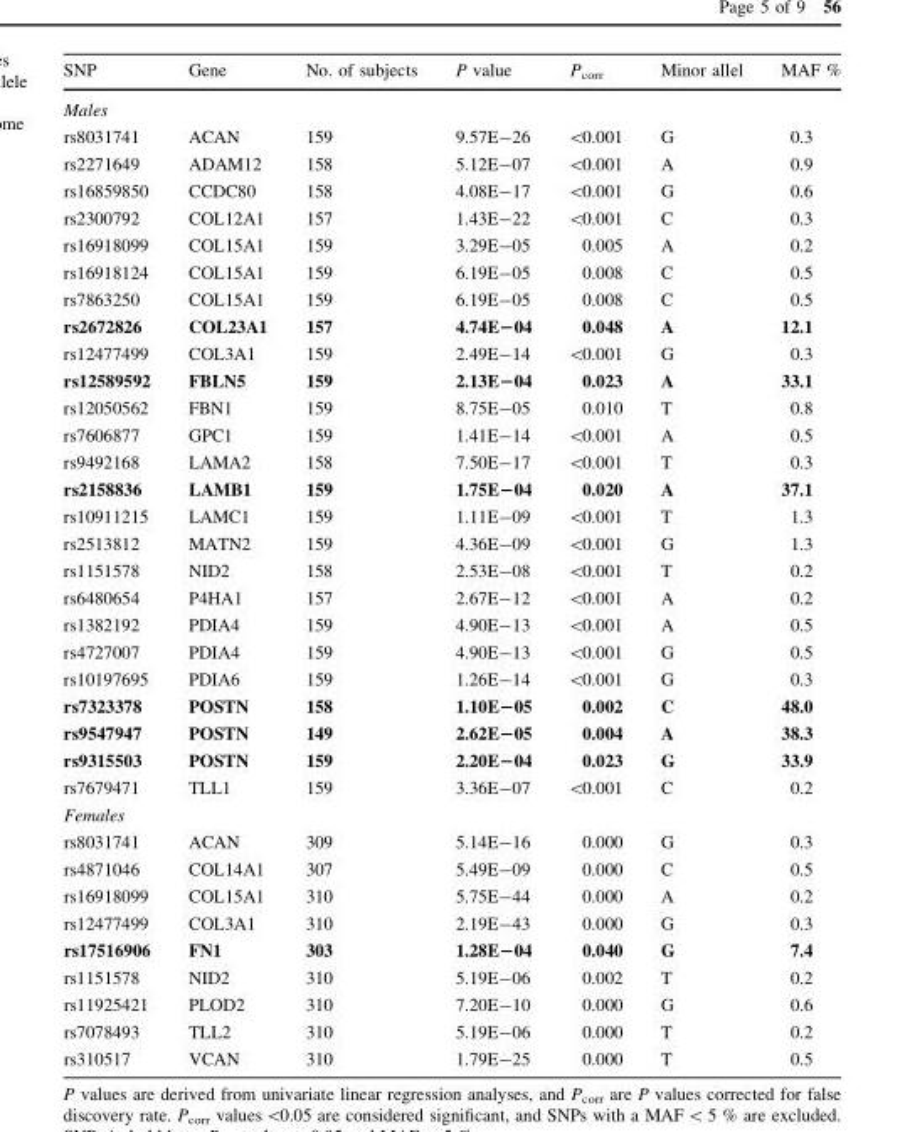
<table><thead><tr><td>SNP</td><td>Gene</td><td>No. of subjects</td><td>P value</td><td>P<sub>corr</sub></td><td>Minor allel</td><td>MAF %</td></tr></thead><tbody><tr><td colspan="7">Males</td></tr><tr><td>rs8031741</td><td>ACAN</td><td>159</td><td>9.57E-26</td><td>&lt;0.001</td><td>G</td><td>0.3</td></tr><tr><td>rs2271649</td><td>ADAM12</td><td>158</td><td>5.12E-07</td><td>&lt;0.001</td><td>A</td><td>0.9</td></tr><tr><td>rs16859850</td><td>CCDC80</td><td>158</td><td>4.08E-17</td><td>&lt;0.001</td><td>G</td><td>0.6</td></tr><tr><td>rs2300792</td><td>COL12A1</td><td>157</td><td>1.43E-22</td><td>&lt;0.001</td><td>C</td><td>0.3</td></tr><tr><td>rs16918099</td><td>COL15A1</td><td>159</td><td>3.29E-05</td><td>0.005</td><td>A</td><td>0.2</td></tr><tr><td>rs16918124</td><td>COL15A1</td><td>159</td><td>6.19E-05</td><td>0.008</td><td>C</td><td>0.5</td></tr><tr><td>rs7863250</td><td>COL15A1</td><td>159</td><td>6.19E-05</td><td>0.008</td><td>C</td><td>0.5</td></tr><tr><td>rs2672826</td><td>COL23A1</td><td>157</td><td>4.74E−04</td><td>0.048</td><td>A</td><td>12.1</td></tr><tr><td>rs12477499</td><td>COL3A1</td><td>159</td><td>2.49E-14</td><td>&lt;0.001</td><td>G</td><td>0.3</td></tr><tr><td>rs12589592</td><td>FBLN5</td><td>159</td><td>2.13E−04</td><td>0.023</td><td>A</td><td>33.1</td></tr><tr><td>rs12050562</td><td>FBN1</td><td>159</td><td>8.75E-05</td><td>0.010</td><td>T</td><td>0.8</td></tr><tr><td>rs7606877</td><td>GPC1</td><td>159</td><td>1.41E-14</td><td>&lt;0.001</td><td>A</td><td>0.5</td></tr><tr><td>rs9492168</td><td>LAMA2</td><td>158</td><td>7.50E-17</td><td>&lt;0.001</td><td>T</td><td>0.3</td></tr><tr><td>rs2158836</td><td>LAMB1</td><td>159</td><td>1.75E−04</td><td>0.020</td><td>A</td><td>37.1</td></tr><tr><td>rs10911215</td><td>LAMC1</td><td>159</td><td>1.11E-09</td><td>&lt;0.001</td><td>T</td><td>1.3</td></tr><tr><td>rs2513812</td><td>MATN2</td><td>159</td><td>4.36E-09</td><td>&lt;0.001</td><td>G</td><td>1.3</td></tr><tr><td>rs1151578</td><td>NID2</td><td>158</td><td>2.53E-08</td><td>&lt;0.001</td><td>T</td><td>0.2</td></tr><tr><td>rs6480654</td><td>P4HA1</td><td>157</td><td>2.67E-12</td><td>&lt;0.001</td><td>A</td><td>0.2</td></tr><tr><td>rs1382192</td><td>PDIA4</td><td>159</td><td>4.90E-13</td><td>&lt;0.001</td><td>A</td><td>0.5</td></tr><tr><td>rs4727007</td><td>PDIA4</td><td>159</td><td>4.90E-13</td><td>&lt;0.001</td><td>G</td><td>0.5</td></tr><tr><td>rs10197695</td><td>PDIA6</td><td>159</td><td>1.26E-14</td><td>&lt;0.001</td><td>G</td><td>0.3</td></tr><tr><td>rs7323378</td><td>POSTN</td><td>158</td><td>1.10E−05</td><td>0.002</td><td>C</td><td>48.0</td></tr><tr><td>rs9547947</td><td>POSTN</td><td>149</td><td>2.62E−05</td><td>0.004</td><td>A</td><td>38.3</td></tr><tr><td>rs9315503</td><td>POSTN</td><td>159</td><td>2.20E−04</td><td>0.023</td><td>G</td><td>33.9</td></tr><tr><td>rs7679471</td><td>TLL1</td><td>159</td><td>3.36E-07</td><td>&lt;0.001</td><td>C</td><td>0.2</td></tr><tr><td colspan="7">Females</td></tr><tr><td>rs8031741</td><td>ACAN</td><td>309</td><td>5.14E-16</td><td>0.000</td><td>G</td><td>0.3</td></tr><tr><td>rs4871046</td><td>COL14A1</td><td>307</td><td>5.49E-09</td><td>0.000</td><td>C</td><td>0.5</td></tr><tr><td>rs16918099</td><td>COL15A1</td><td>310</td><td>5.75E-44</td><td>0.000</td><td>A</td><td>0.2</td></tr><tr><td>rs12477499</td><td>COL3A1</td><td>310</td><td>2.19E-43</td><td>0.000</td><td>G</td><td>0.3</td></tr><tr><td>rs17516906</td><td>FN1</td><td>303</td><td>1.28E−04</td><td>0.040</td><td>G</td><td>7.4</td></tr><tr><td>rs1151578</td><td>NID2</td><td>310</td><td>5.19E-06</td><td>0.002</td><td>T</td><td>0.2</td></tr><tr><td>rs11925421</td><td>PLOD2</td><td>310</td><td>7.20E-10</td><td>0.000</td><td>G</td><td>0.6</td></tr><tr><td>rs7078493</td><td>TLL2</td><td>310</td><td>5.19E-06</td><td>0.000</td><td>T</td><td>0.2</td></tr><tr><td>rs310517</td><td>VCAN</td><td>310</td><td>1.79E-25</td><td>0.000</td><td>T</td><td>0.5</td></tr></tbody></table>